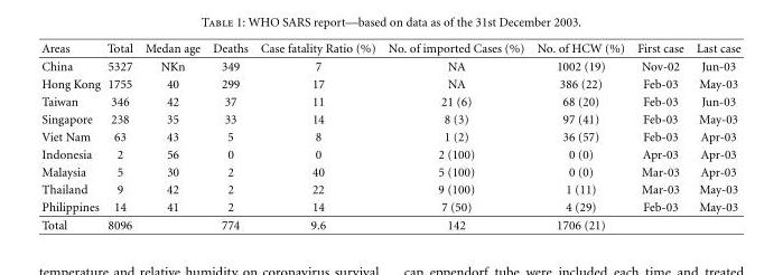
<table><thead><tr><td>Areas</td><td>Total</td><td>Medan age</td><td>Deaths</td><td>Case fatality Ratio (%)</td><td>No. of imported Cases (%)</td><td>No. of HCW (%)</td><td>First case</td><td>Last case</td></tr></thead><tbody><tr><td>China</td><td>5327</td><td>NKn</td><td>349</td><td>7</td><td>NA</td><td>1002 (19)</td><td>Nov-02</td><td>Jun-03</td></tr><tr><td>Hong Kong</td><td>1755</td><td>40</td><td>299</td><td>17</td><td>NA</td><td>386 (22)</td><td>Feb-03</td><td>May-03</td></tr><tr><td>Taiwan</td><td>346</td><td>42</td><td>37</td><td>11</td><td>21 (6)</td><td>68 (20)</td><td>Feb-03</td><td>Jun-03</td></tr><tr><td>Singapore</td><td>238</td><td>35</td><td>33</td><td>14</td><td>8 (3)</td><td>97 (41)</td><td>Feb-03</td><td>May-03</td></tr><tr><td>Viet Nam</td><td>63</td><td>43</td><td>5</td><td>8</td><td>1 (2)</td><td>36 (57)</td><td>Feb-03</td><td>Apr-03</td></tr><tr><td>Indonesia</td><td>2</td><td>56</td><td>0</td><td>0</td><td>2 (100)</td><td>0 (0)</td><td>Apr-03</td><td>Apr-03</td></tr><tr><td>Malaysia</td><td>5</td><td>30</td><td>2</td><td>40</td><td>5 (100)</td><td>0 (0)</td><td>Mar-03</td><td>Apr-03</td></tr><tr><td>Thailand</td><td>9</td><td>42</td><td>2</td><td>22</td><td>9 (100)</td><td>1 (11)</td><td>Mar-03</td><td>May-03</td></tr><tr><td>Philippines</td><td>14</td><td>41</td><td>2</td><td>14</td><td>7 (50)</td><td>4 (29)</td><td>Feb-03</td><td>May-03</td></tr><tr><td>Total</td><td>8096</td><td></td><td>774</td><td>9.6</td><td>142</td><td>1706 (21)</td><td></td><td></td></tr></tbody></table>